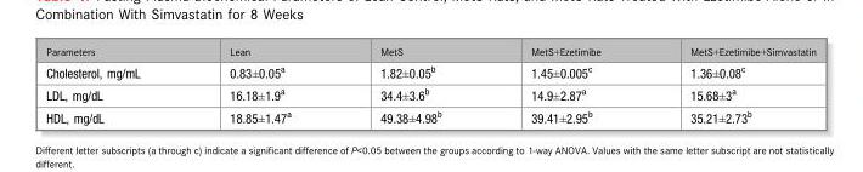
<table><thead><tr><td>Parameters</td><td>Lean</td><td>MetS</td><td>MetS+Ezetimibe</td><td>MetS+Ezetimibe+Simvastatin</td></tr></thead><tbody><tr><td>Cholesterol, mg/mL</td><td>0.83±0.05<sup>a</sup></td><td>1.82±0.05<sup>b</sup></td><td>1.45±0.005<sup>c</sup></td><td>1.36±0.08<sup>c</sup></td></tr><tr><td>LDL, mg/dL</td><td>16.18±1.9<sup>a</sup></td><td>34.4±3.6<sup>b</sup></td><td>14.9±2.87<sup>a</sup></td><td>15.68±3<sup>a</sup></td></tr><tr><td>HDL, mg/dL</td><td>18.85±1.47<sup>a</sup></td><td>49.38±4.98<sup>b</sup></td><td>39.41±2.95<sup>b</sup></td><td>35.21±2.73<sup>b</sup></td></tr></tbody></table>